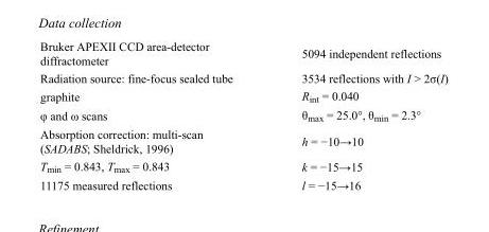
<table><tbody><tr><td>Bruker APEXII CCD area-detector diffractometer</td><td>5094 independent reflections</td></tr><tr><td>Radiation source: fine-focus sealed tube</td><td>3534 reflections with I &gt; 2σ(I)</td></tr><tr><td>graphite</td><td>R<sub>int</sub> = 0.040</td></tr><tr><td>φ and ω scans</td><td>θ<sub>max</sub> = 25.0°, θ<sub>min</sub> = 2.3°</td></tr><tr><td>Absorption correction: multi-scan (SADABS; Sheldrick, 1996)</td><td>h = −10→10</td></tr><tr><td>T<sub>min</sub> = 0.843, T<sub>max</sub> = 0.843</td><td>k = −15→15</td></tr><tr><td>11175 measured reflections</td><td>l = −15→16</td></tr></tbody></table>